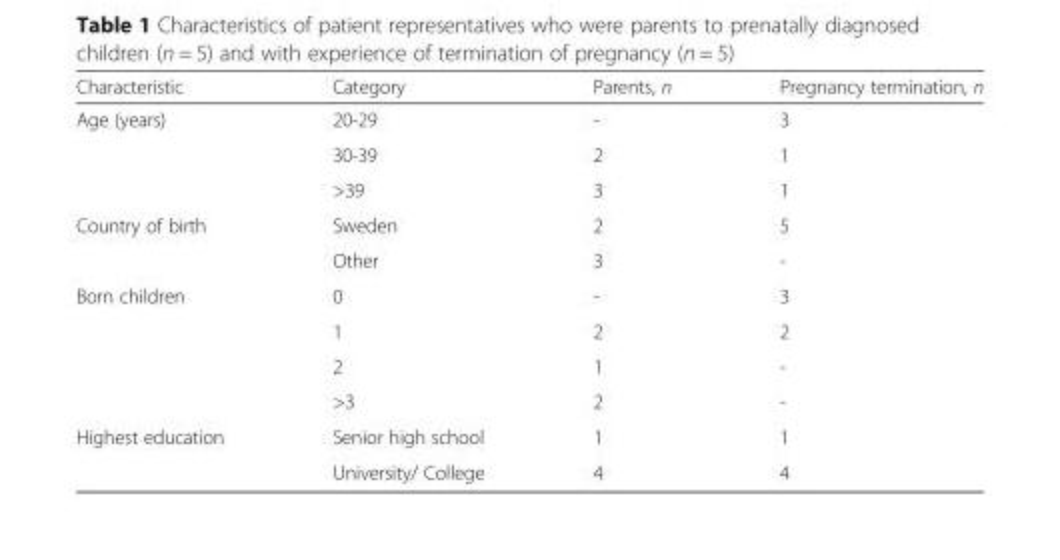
<table><thead><tr><td>Characteristic</td><td>Category</td><td>Parents, n</td><td>Pregnancy termination, n</td></tr></thead><tbody><tr><td rowspan="3">Age (years)</td><td>20-29</td><td>-</td><td>3</td></tr><tr><td>30-39</td><td>2</td><td>1</td></tr><tr><td>&gt;39</td><td>3</td><td>1</td></tr><tr><td rowspan="2">Country of birth</td><td>Sweden</td><td>2</td><td>5</td></tr><tr><td>Other</td><td>3</td><td>-</td></tr><tr><td rowspan="4">Born children</td><td>0</td><td>-</td><td>3</td></tr><tr><td>1</td><td>2</td><td>2</td></tr><tr><td>2</td><td>1</td><td>-</td></tr><tr><td>&gt;3</td><td>2</td><td>-</td></tr><tr><td rowspan="2">Highest education</td><td>Senior high school</td><td>1</td><td>1</td></tr><tr><td>University/ College</td><td>4</td><td>4</td></tr></tbody></table>